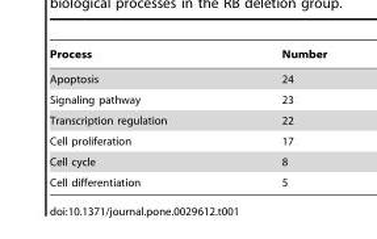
<table><thead><tr><td>Process</td><td>Number</td></tr></thead><tbody><tr><td>Apoptosis</td><td>24</td></tr><tr><td>Signaling pathway</td><td>23</td></tr><tr><td>Transcription regulation</td><td>22</td></tr><tr><td>Cell proliferation</td><td>17</td></tr><tr><td>Cell cycle</td><td>8</td></tr><tr><td>Cell differentiation</td><td>5</td></tr></tbody></table>